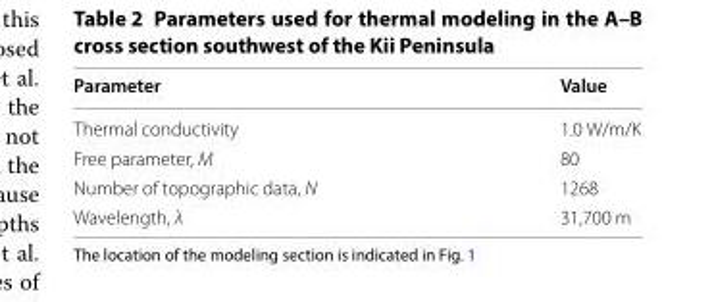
<table><thead><tr><td>Parameter</td><td>Value</td></tr></thead><tbody><tr><td>Thermal conductivity</td><td>1.0 W/m/K</td></tr><tr><td>Free parameter, M</td><td>80</td></tr><tr><td>Number of topographic data, N</td><td>1268</td></tr><tr><td>Wavelength, λ</td><td>31,700 m</td></tr></tbody></table>